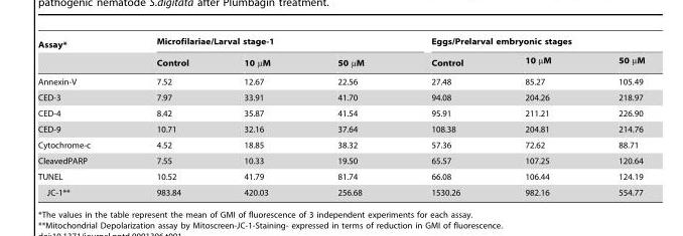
<table><thead><tr><td rowspan="2">Assay*</td><td colspan="3">Microfilariae/Larval stage-1</td><td colspan="3">Eggs/Prelarval embryonic stages</td></tr><tr><td>Control</td><td>10 µM</td><td>50 µM</td><td>Control</td><td>10 µM</td><td>50 µM</td></tr></thead><tbody><tr><td>Annexin-V</td><td>7.52</td><td>12.67</td><td>22.56</td><td>27.48</td><td>85.27</td><td>105.49</td></tr><tr><td>CED-3</td><td>7.97</td><td>33.91</td><td>41.70</td><td>94.08</td><td>204.26</td><td>218.97</td></tr><tr><td>CED-4</td><td>8.42</td><td>35.87</td><td>41.54</td><td>95.91</td><td>211.21</td><td>226.90</td></tr><tr><td>CED-9</td><td>10.71</td><td>32.16</td><td>37.64</td><td>108.38</td><td>204.81</td><td>214.76</td></tr><tr><td>Cytochrome-c</td><td>4.52</td><td>18.85</td><td>38.32</td><td>57.36</td><td>72.62</td><td>88.71</td></tr><tr><td>CleavedPARP</td><td>7.55</td><td>10.33</td><td>19.50</td><td>65.57</td><td>107.25</td><td>120.64</td></tr><tr><td>TUNEL</td><td>10.52</td><td>41.79</td><td>81.74</td><td>66.08</td><td>106.44</td><td>124.19</td></tr><tr><td>JC-1**</td><td>983.84</td><td>420.03</td><td>256.68</td><td>1530.26</td><td>982.16</td><td>554.77</td></tr></tbody></table>